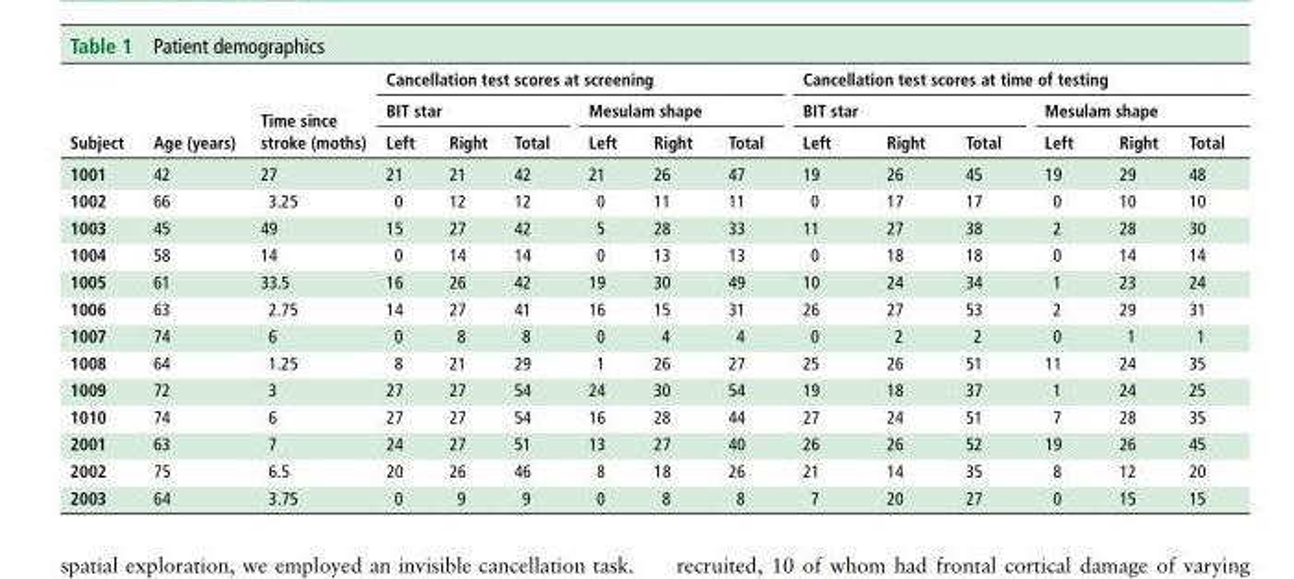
<table><thead><tr><td rowspan="3">subject</td><td rowspan="3">Age (years)</td><td rowspan="3">Time since stroke (moths)</td><td colspan="6">Cancellation test scores at screening</td><td colspan="6">Cancellation test scores at time of testing</td></tr><tr><td colspan="3">bIT star</td><td colspan="3">Mesulam shape</td><td colspan="3">bIT star</td><td colspan="3">Mesulam shape</td></tr><tr><td>Left</td><td>right</td><td>Total</td><td>Left</td><td>right</td><td>Total</td><td>Left</td><td>right</td><td>Total</td><td>Left</td><td>right</td><td>Total</td></tr></thead><tbody><tr><td>1001</td><td>42</td><td>27</td><td>21</td><td>21</td><td>42</td><td>21</td><td>26</td><td>47</td><td>19</td><td>26</td><td>45</td><td>19</td><td>29</td><td>48</td></tr><tr><td>1002</td><td>66</td><td>3.25</td><td>0</td><td>12</td><td>12</td><td>0</td><td>11</td><td>11</td><td>0</td><td>17</td><td>17</td><td>0</td><td>10</td><td>10</td></tr><tr><td>1003</td><td>45</td><td>49</td><td>15</td><td>27</td><td>42</td><td>5</td><td>28</td><td>33</td><td>11</td><td>27</td><td>38</td><td>2</td><td>28</td><td>30</td></tr><tr><td>1004</td><td>58</td><td>14</td><td>0</td><td>14</td><td>14</td><td>0</td><td>13</td><td>13</td><td>0</td><td>18</td><td>18</td><td>0</td><td>14</td><td>14</td></tr><tr><td>1005</td><td>61</td><td>33.5</td><td>16</td><td>26</td><td>42</td><td>19</td><td>30</td><td>49</td><td>10</td><td>24</td><td>34</td><td>1</td><td>23</td><td>24</td></tr><tr><td>1006</td><td>63</td><td>2.75</td><td>14</td><td>27</td><td>41</td><td>16</td><td>15</td><td>31</td><td>26</td><td>27</td><td>53</td><td>2</td><td>29</td><td>31</td></tr><tr><td>1007</td><td>74</td><td>6</td><td>0</td><td>8</td><td>8</td><td>0</td><td>4</td><td>4</td><td>0</td><td>2</td><td>2</td><td>0</td><td>1</td><td>1</td></tr><tr><td>1008</td><td>64</td><td>1.25</td><td>8</td><td>21</td><td>29</td><td>1</td><td>26</td><td>27</td><td>25</td><td>26</td><td>51</td><td>11</td><td>24</td><td>35</td></tr><tr><td>1009</td><td>72</td><td>3</td><td>27</td><td>27</td><td>54</td><td>24</td><td>30</td><td>54</td><td>19</td><td>18</td><td>37</td><td>1</td><td>24</td><td>25</td></tr><tr><td>1010</td><td>74</td><td>6</td><td>27</td><td>27</td><td>54</td><td>16</td><td>28</td><td>44</td><td>27</td><td>24</td><td>51</td><td>7</td><td>28</td><td>35</td></tr><tr><td>2001</td><td>63</td><td>7</td><td>24</td><td>27</td><td>51</td><td>13</td><td>27</td><td>40</td><td>26</td><td>26</td><td>52</td><td>19</td><td>26</td><td>45</td></tr><tr><td>2002</td><td>75</td><td>6.5</td><td>20</td><td>26</td><td>46</td><td>8</td><td>18</td><td>26</td><td>21</td><td>14</td><td>35</td><td>8</td><td>12</td><td>20</td></tr><tr><td>2003</td><td>64</td><td>3.75</td><td>0</td><td>9</td><td>9</td><td>0</td><td>8</td><td>8</td><td>7</td><td>20</td><td>27</td><td>0</td><td>15</td><td>15</td></tr></tbody></table>